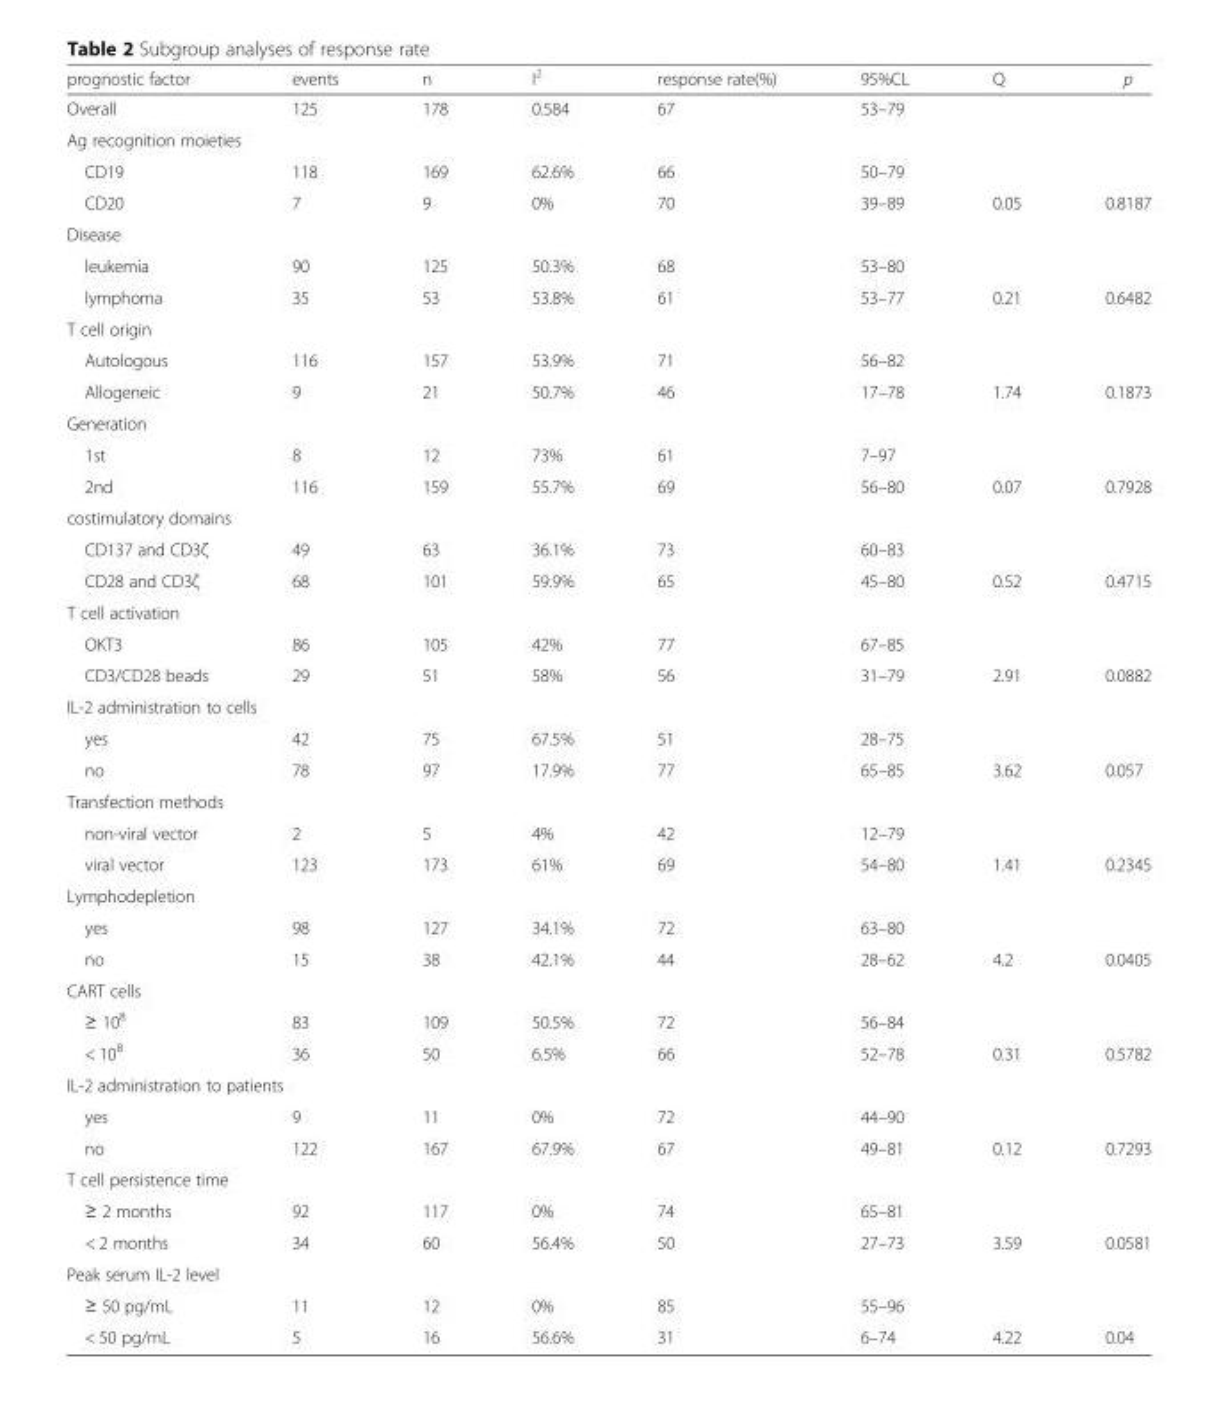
<table><thead><tr><td>prognostic factor</td><td>events</td><td>n</td><td>I<sup>2</sup></td><td>response rate(%)</td><td>95%CL</td><td>Q</td><td>p</td></tr></thead><tbody><tr><td>Overall</td><td>125</td><td>178</td><td>0.584</td><td>67</td><td>53–79</td><td></td><td></td></tr><tr><td colspan="8">Ag recognition moieties</td></tr><tr><td>CD19</td><td>118</td><td>169</td><td>62.6%</td><td>66</td><td>50–79</td><td></td><td></td></tr><tr><td>CD20</td><td>7</td><td>9</td><td>0%</td><td>70</td><td>39–89</td><td>0.05</td><td>0.8187</td></tr><tr><td colspan="8">Disease</td></tr><tr><td>leukemia</td><td>90</td><td>125</td><td>50.3%</td><td>68</td><td>53–80</td><td></td><td></td></tr><tr><td>lymphoma</td><td>35</td><td>53</td><td>53.8%</td><td>61</td><td>53–77</td><td>0.21</td><td>0.6482</td></tr><tr><td colspan="8">T cell origin</td></tr><tr><td>Autologous</td><td>116</td><td>157</td><td>53.9%</td><td>71</td><td>56–82</td><td></td><td></td></tr><tr><td>Allogeneic</td><td>9</td><td>21</td><td>50.7%</td><td>46</td><td>17–78</td><td>1.74</td><td>0.1873</td></tr><tr><td colspan="8">Generation</td></tr><tr><td>1st</td><td>8</td><td>12</td><td>73%</td><td>61</td><td>7–97</td><td></td><td></td></tr><tr><td>2nd</td><td>116</td><td>159</td><td>55.7%</td><td>69</td><td>56–80</td><td>0.07</td><td>0.7928</td></tr><tr><td colspan="8">costimulatory domains</td></tr><tr><td>CD137 and CD3ζ</td><td>49</td><td>63</td><td>36.1%</td><td>73</td><td>60–83</td><td></td><td></td></tr><tr><td>CD28 and CD3ζ</td><td>68</td><td>101</td><td>59.9%</td><td>65</td><td>45–80</td><td>0.52</td><td>0.4715</td></tr><tr><td colspan="8">T cell activation</td></tr><tr><td>OKT3</td><td>86</td><td>105</td><td>42%</td><td>77</td><td>67–85</td><td></td><td></td></tr><tr><td>CD3/CD28 beads</td><td>29</td><td>51</td><td>58%</td><td>56</td><td>31–79</td><td>2.91</td><td>0.0882</td></tr><tr><td colspan="8">IL-2 administration to cells</td></tr><tr><td>yes</td><td>42</td><td>75</td><td>67.5%</td><td>51</td><td>28–75</td><td></td><td></td></tr><tr><td>no</td><td>78</td><td>97</td><td>17.9%</td><td>77</td><td>65–85</td><td>3.62</td><td>0.057</td></tr><tr><td colspan="8">Transfection methods</td></tr><tr><td>non-viral vector</td><td>2</td><td>5</td><td>4%</td><td>42</td><td>12–79</td><td></td><td></td></tr><tr><td>viral vector</td><td>123</td><td>173</td><td>61%</td><td>69</td><td>54–80</td><td>1.41</td><td>0.2345</td></tr><tr><td colspan="8">Lymphodepletion</td></tr><tr><td>yes</td><td>98</td><td>127</td><td>34.1%</td><td>72</td><td>63–80</td><td></td><td></td></tr><tr><td>no</td><td>15</td><td>38</td><td>42.1%</td><td>44</td><td>28–62</td><td>4.2</td><td>0.0405</td></tr><tr><td colspan="8">CART cells</td></tr><tr><td>≥ 10<sup>8</sup></td><td>83</td><td>109</td><td>50.5%</td><td>72</td><td>56–84</td><td></td><td></td></tr><tr><td>&lt; 10<sup>8</sup></td><td>36</td><td>50</td><td>6.5%</td><td>66</td><td>52–78</td><td>0.31</td><td>0.5782</td></tr><tr><td colspan="8">IL-2 administration to patients</td></tr><tr><td>yes</td><td>9</td><td>11</td><td>0%</td><td>72</td><td>44–90</td><td></td><td></td></tr><tr><td>no</td><td>122</td><td>167</td><td>67.9%</td><td>67</td><td>49–81</td><td>0.12</td><td>0.7293</td></tr><tr><td colspan="8">T cell persistence time</td></tr><tr><td>≥ 2 months</td><td>92</td><td>117</td><td>0%</td><td>74</td><td>65–81</td><td></td><td></td></tr><tr><td>&lt; 2 months</td><td>34</td><td>60</td><td>56.4%</td><td>50</td><td>27–73</td><td>3.59</td><td>0.0581</td></tr><tr><td colspan="8">Peak serum IL-2 level</td></tr><tr><td>≥ 50 pg/mL</td><td>11</td><td>12</td><td>0%</td><td>85</td><td>55–96</td><td></td><td></td></tr><tr><td>&lt; 50 pg/mL</td><td>5</td><td>16</td><td>56.6%</td><td>31</td><td>6–74</td><td>4.22</td><td>0.04</td></tr></tbody></table>